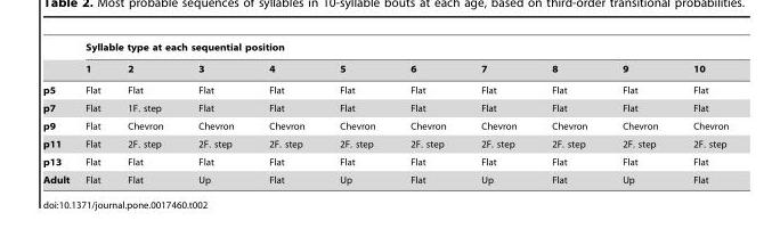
<table><thead><tr><td rowspan="2"></td><td colspan="10">Syllable type at each sequential position</td></tr><tr><td>1</td><td>2</td><td>3</td><td>4</td><td>5</td><td>6</td><td>7</td><td>8</td><td>9</td><td>10</td></tr></thead><tbody><tr><td>p5</td><td>Flat</td><td>Flat</td><td>Flat</td><td>Flat</td><td>Flat</td><td>Flat</td><td>Flat</td><td>Flat</td><td>Flat</td><td>Flat</td></tr><tr><td>p7</td><td>Flat</td><td>1F. step</td><td>Flat</td><td>Flat</td><td>Flat</td><td>Flat</td><td>Flat</td><td>Flat</td><td>Flat</td><td>Flat</td></tr><tr><td>p9</td><td>Flat</td><td>Chevron</td><td>Chevron</td><td>Chevron</td><td>Chevron</td><td>Chevron</td><td>Chevron</td><td>Chevron</td><td>Chevron</td><td>Chevron</td></tr><tr><td>p11</td><td>Flat</td><td>2F. step</td><td>2F. step</td><td>2F. step</td><td>2F. step</td><td>2F. step</td><td>2F. step</td><td>2F. step</td><td>2F. step</td><td>2F. step</td></tr><tr><td>p13</td><td>Flat</td><td>Flat</td><td>Flat</td><td>Flat</td><td>Flat</td><td>Flat</td><td>Flat</td><td>Flat</td><td>Flat</td><td>Flat</td></tr><tr><td>Adult</td><td>Flat</td><td>Flat</td><td>Up</td><td>Flat</td><td>Up</td><td>Flat</td><td>Up</td><td>Flat</td><td>Up</td><td>Flat</td></tr></tbody></table>